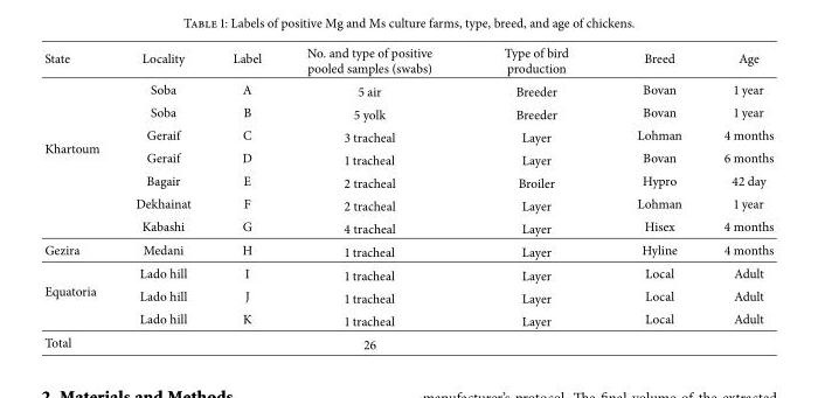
<table><thead><tr><td>State</td><td>Locality</td><td>Label</td><td>No. and type of positive pooled samples (swabs)</td><td>Type of bird production</td><td>Breed</td><td>Age</td></tr></thead><tbody><tr><td rowspan="7">Khartoum</td><td>Soba</td><td>A</td><td>5 air</td><td>Breeder</td><td>Bovan</td><td>1 year</td></tr><tr><td>Soba</td><td>B</td><td>5 yolk</td><td>Breeder</td><td>Bovan</td><td>1 year</td></tr><tr><td>Geraif</td><td>C</td><td>3 tracheal</td><td>Layer</td><td>Lohman</td><td>4 months</td></tr><tr><td>Geraif</td><td>D</td><td>1 tracheal</td><td>Layer</td><td>Bovan</td><td>6 months</td></tr><tr><td>Bagair</td><td>E</td><td>2 tracheal</td><td>Broiler</td><td>Hypro</td><td>42 day</td></tr><tr><td>Dekhainat</td><td>F</td><td>2 tracheal</td><td>Layer</td><td>Lohman</td><td>1 year</td></tr><tr><td>Kabashi</td><td>G</td><td>4 tracheal</td><td>Layer</td><td>Hisex</td><td>4 months</td></tr><tr><td>Gezira</td><td>Medani</td><td>H</td><td>1 tracheal</td><td>Layer</td><td>Hyline</td><td>4 months</td></tr><tr><td rowspan="3">Equatoria</td><td>Lado hill</td><td>I</td><td>1 tracheal</td><td>Layer</td><td>Local</td><td>Adult</td></tr><tr><td>Lado hill</td><td>J</td><td>1 tracheal</td><td>Layer</td><td>Local</td><td>Adult</td></tr><tr><td>Lado hill</td><td>K</td><td>1 tracheal</td><td>Layer</td><td>Local</td><td>Adult</td></tr><tr><td>Total</td><td></td><td></td><td>26</td><td></td><td></td><td></td></tr></tbody></table>